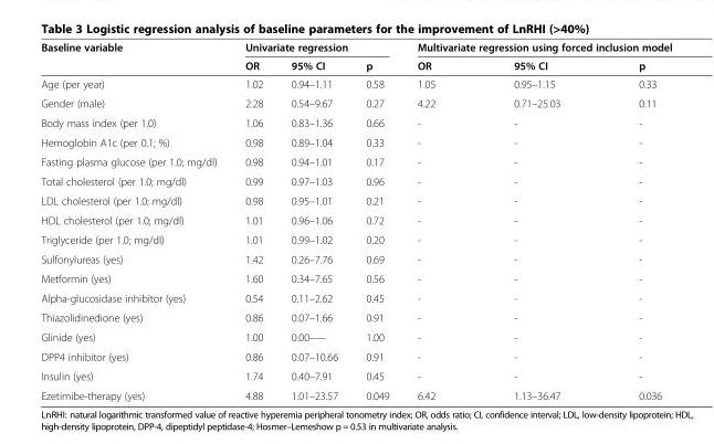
<table><thead><tr><td rowspan="2">Baseline variable</td><td colspan="3">Univariate regression</td><td colspan="3">Multivariate regression using forced inclusion model</td></tr><tr><td>OR</td><td>95% CI</td><td>p</td><td>OR</td><td>95% CI</td><td>p</td></tr></thead><tbody><tr><td>Age (per year)</td><td>1.02</td><td>0.94–1.11</td><td>0.58</td><td>1.05</td><td>0.95–1.15</td><td>0.33</td></tr><tr><td>Gender (male)</td><td>2.28</td><td>0.54–9.67</td><td>0.27</td><td>4.22</td><td>0.71–25.03</td><td>0.11</td></tr><tr><td>Body mass index (per 1.0)</td><td>1.06</td><td>0.83–1.36</td><td>0.66</td><td>-</td><td>-</td><td>-</td></tr><tr><td>Hemoglobin A1c (per 0.1; %)</td><td>0.98</td><td>0.89–1.04</td><td>0.33</td><td>-</td><td>-</td><td>-</td></tr><tr><td>Fasting plasma glucose (per 1.0; mg/dl)</td><td>0.98</td><td>0.94–1.01</td><td>0.17</td><td>-</td><td>-</td><td>-</td></tr><tr><td>Total cholesterol (per 1.0; mg/dl)</td><td>0.99</td><td>0.97–1.03</td><td>0.96</td><td>-</td><td>-</td><td>-</td></tr><tr><td>LDL cholesterol (per 1.0; mg/dl)</td><td>0.98</td><td>0.95–1.01</td><td>0.21</td><td>-</td><td>-</td><td>-</td></tr><tr><td>HDL cholesterol (per 1.0; mg/dl)</td><td>1.01</td><td>0.96–1.06</td><td>0.72</td><td>-</td><td>-</td><td>-</td></tr><tr><td>Triglyceride (per 1.0; mg/dl)</td><td>1.01</td><td>0.99–1.02</td><td>0.20</td><td>-</td><td>-</td><td>-</td></tr><tr><td>Sulfonylureas (yes)</td><td>1.42</td><td>0.26–7.76</td><td>0.69</td><td>-</td><td>-</td><td>-</td></tr><tr><td>Metformin (yes)</td><td>1.60</td><td>0.34–7.65</td><td>0.56</td><td>-</td><td>-</td><td>-</td></tr><tr><td>Alpha-glucosidase inhibitor (yes)</td><td>0.54</td><td>0.11–2.62</td><td>0.45</td><td>-</td><td>-</td><td>-</td></tr><tr><td>Thiazolidinedione (yes)</td><td>0.86</td><td>0.07–1.66</td><td>0.91</td><td>-</td><td>-</td><td>-</td></tr><tr><td>Glinide (yes)</td><td>1.00</td><td>0.00–—</td><td>1.00</td><td>-</td><td>-</td><td>-</td></tr><tr><td>DPP4 inhibitor (yes)</td><td>0.86</td><td>0.07–10.66</td><td>0.91</td><td>-</td><td>-</td><td>-</td></tr><tr><td>Insulin (yes)</td><td>1.74</td><td>0.40–7.91</td><td>0.45</td><td>-</td><td>-</td><td>-</td></tr><tr><td>Ezetimibe-therapy (yes)</td><td>4.88</td><td>1.01–23.57</td><td>0.049</td><td>6.42</td><td>1.13–36.47</td><td>0.036</td></tr></tbody></table>